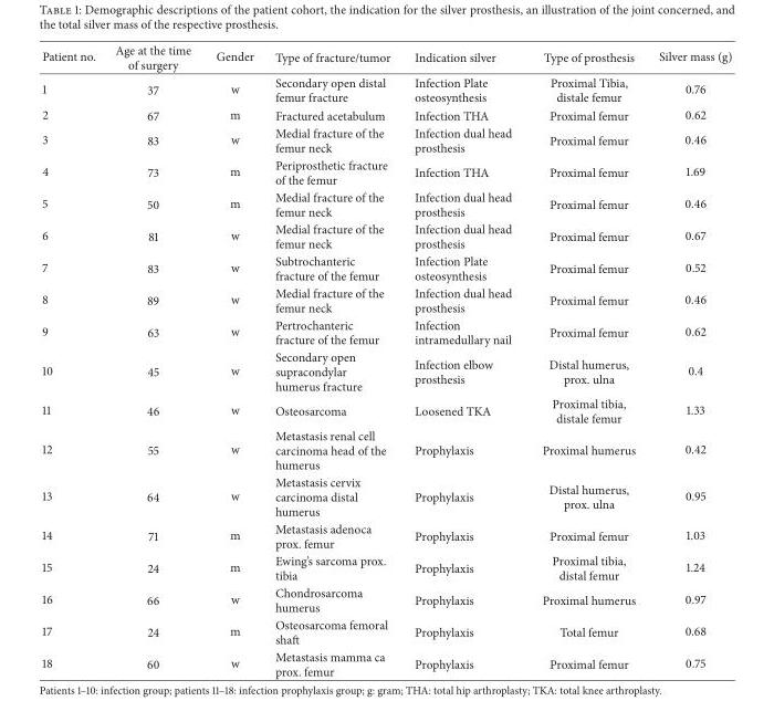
<table><thead><tr><td>Patient no.</td><td>Age at the time of surgery</td><td>Gender</td><td>Type of fracture/tumor</td><td>Indication silver</td><td>Type of prosthesis</td><td>Silver mass (g)</td></tr></thead><tbody><tr><td>1</td><td>37</td><td>w</td><td>Secondary open distal femur fracture</td><td>Infection Plate osteosynthesis</td><td>Proximal Tibia, distale femur</td><td>0.76</td></tr><tr><td>2</td><td>67</td><td>m</td><td>Fractured acetabulum</td><td>Infection THA</td><td>Proximal femur</td><td>0.62</td></tr><tr><td>3</td><td>83</td><td>w</td><td>Medial fracture of the femur neck</td><td>Infection dual head prosthesis</td><td>Proximal femur</td><td>0.46</td></tr><tr><td>4</td><td>73</td><td>m</td><td>Periprosthetic fracture of the femur</td><td>Infection THA</td><td>Proximal femur</td><td>1.69</td></tr><tr><td>5</td><td>50</td><td>m</td><td>Medial fracture of the femur neck</td><td>Infection dual head prosthesis</td><td>Proximal femur</td><td>0.46</td></tr><tr><td>6</td><td>81</td><td>w</td><td>Medial fracture of the femur neck</td><td>Infection dual head prosthesis</td><td>Proximal femur</td><td>0.67</td></tr><tr><td>7</td><td>83</td><td>w</td><td>Subtrochanteric fracture of the femur</td><td>Infection Plate osteosynthesis</td><td>Proximal femur</td><td>0.52</td></tr><tr><td>8</td><td>89</td><td>w</td><td>Medial fracture of the femur neck</td><td>Infection dual head prosthesis</td><td>Proximal femur</td><td>0.46</td></tr><tr><td>9</td><td>63</td><td>w</td><td>Pertrochanteric fracture of the femur</td><td>Infection intramedullary nail</td><td>Proximal femur</td><td>0.62</td></tr><tr><td>10</td><td>45</td><td>w</td><td>Secondary open supracondylar humerus fracture</td><td>Infection elbow prosthesis</td><td>Distal humerus, prox. ulna</td><td>0.4</td></tr><tr><td>11</td><td>46</td><td>w</td><td>Osteosarcoma</td><td>Loosened TKA</td><td>Proximal tibia, distale femur</td><td>1.33</td></tr><tr><td>12</td><td>55</td><td>w</td><td>Metastasis renal cell carcinoma head of the humerus</td><td>Prophylaxis</td><td>Proximal humerus</td><td>0.42</td></tr><tr><td>13</td><td>64</td><td>w</td><td>Metastasis cervix carcinoma distal humerus</td><td>Prophylaxis</td><td>Distal humerus, prox. ulna</td><td>0.95</td></tr><tr><td>14</td><td>71</td><td>m</td><td>Metastasis adenoca prox. femur</td><td>Prophylaxis</td><td>Proximal femur</td><td>1.03</td></tr><tr><td>15</td><td>24</td><td>m</td><td>Ewing’s sarcoma prox. tibia</td><td>Prophylaxis</td><td>Proximal tibia, distal femur</td><td>1.24</td></tr><tr><td>16</td><td>66</td><td>w</td><td>Chondrosarcoma humerus</td><td>Prophylaxis</td><td>Proximal humerus</td><td>0.97</td></tr><tr><td>17</td><td>24</td><td>m</td><td>Osteosarcoma femoral shaft</td><td>Prophylaxis</td><td>Total femur</td><td>0.68</td></tr><tr><td>18</td><td>60</td><td>w</td><td>Metastasis mamma ca prox. femur</td><td>Prophylaxis</td><td>Proximal femur</td><td>0.75</td></tr></tbody></table>